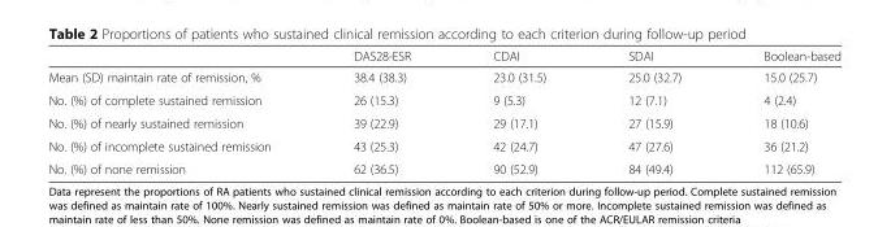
<table><thead><tr><td></td><td>DAS28-ESR</td><td>CDAI</td><td>SDAI</td><td>Boolean-based</td></tr></thead><tbody><tr><td>Mean (SD) maintain rate of remission, %</td><td>38.4 (38.3)</td><td>23.0 (31.5)</td><td>25.0 (32.7)</td><td>15.0 (25.7)</td></tr><tr><td>No. (%) of complete sustained remission</td><td>26 (15.3)</td><td>9 (5.3)</td><td>12 (7.1)</td><td>4 (2.4)</td></tr><tr><td>No. (%) of nearly sustained remission</td><td>39 (22.9)</td><td>29 (17.1)</td><td>27 (15.9)</td><td>18 (10.6)</td></tr><tr><td>No. (%) of incomplete sustained remission</td><td>43 (25.3)</td><td>42 (24.7)</td><td>47 (27.6)</td><td>36 (21.2)</td></tr><tr><td>No. (%) of none remission</td><td>62 (36.5)</td><td>90 (52.9)</td><td>84 (49.4)</td><td>112 (65.9)</td></tr></tbody></table>